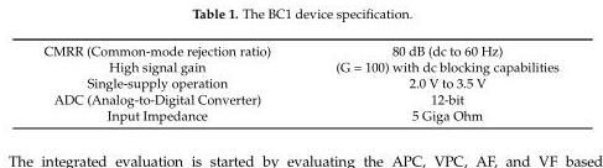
<table><tbody><tr><td>CMRR (Common-mode rejection ratio)</td><td>80 dB (dc to 60 Hz)</td></tr><tr><td>High signal gain</td><td>(G = 100) with dc blocking capabilities</td></tr><tr><td>Single-supply operation</td><td>2.0 V to 3.5 V</td></tr><tr><td>ADC (Analog-to-Digital Converter)</td><td>12-bit</td></tr><tr><td>Input Impedance</td><td>5 Giga Ohm</td></tr></tbody></table>